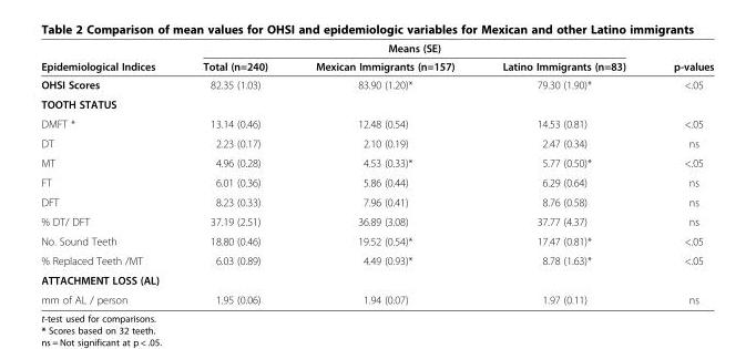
<table><thead><tr><td rowspan="2">Epidemiological Indices</td><td colspan="3">Means (SE)</td><td rowspan="2">p-values</td></tr><tr><td>Total (n=240)</td><td>Mexican Immigrants (n=157)</td><td>Latino Immigrants (n=83)</td></tr></thead><tbody><tr><td>OHSI Scores</td><td>82.35 (1.03)</td><td>83.90 (1.20)*</td><td>79.30 (1.90)*</td><td>&lt;.05</td></tr><tr><td colspan="5">TOOTH STATUS</td></tr><tr><td>DMFT *</td><td>13.14 (0.46)</td><td>12.48 (0.54)</td><td>14.53 (0.81)</td><td>&lt;.05</td></tr><tr><td>DT</td><td>2.23 (0.17)</td><td>2.10 (0.19)</td><td>2.47 (0.34)</td><td>ns</td></tr><tr><td>MT</td><td>4.96 (0.28)</td><td>4.53 (0.33)*</td><td>5.77 (0.50)*</td><td>&lt;.05</td></tr><tr><td>FT</td><td>6.01 (0.36)</td><td>5.86 (0.44)</td><td>6.29 (0.64)</td><td>ns</td></tr><tr><td>DFT</td><td>8.23 (0.33)</td><td>7.96 (0.41)</td><td>8.76 (0.58)</td><td>ns</td></tr><tr><td>% DT/ DFT</td><td>37.19 (2.51)</td><td>36.89 (3.08)</td><td>37.77 (4.37)</td><td>ns</td></tr><tr><td>No. Sound Teeth</td><td>18.80 (0.46)</td><td>19.52 (0.54)*</td><td>17.47 (0.81)*</td><td>&lt;.05</td></tr><tr><td>% Replaced Teeth /MT</td><td>6.03 (0.89)</td><td>4.49 (0.93)*</td><td>8.78 (1.63)*</td><td>&lt;.05</td></tr><tr><td colspan="5">ATTACHMENT LOSS (AL)</td></tr><tr><td>mm of AL / person</td><td>1.95 (0.06)</td><td>1.94 (0.07)</td><td>1.97 (0.11)</td><td>ns</td></tr></tbody></table>